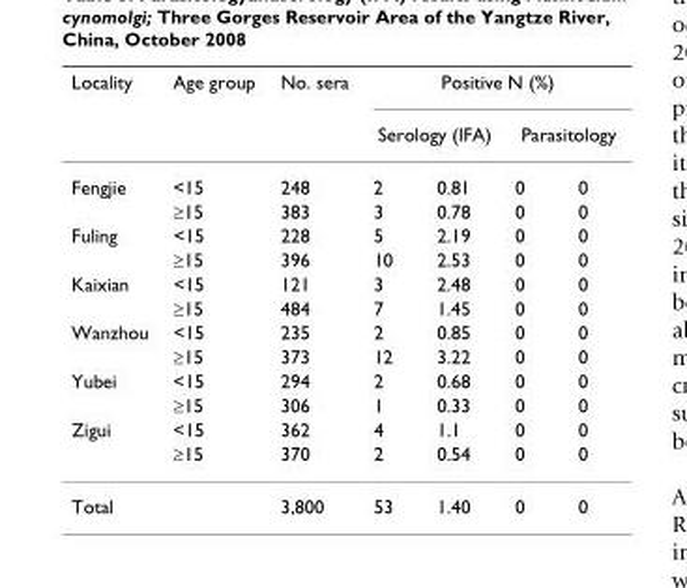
<table><thead><tr><td rowspan="3">Locality Fengjie</td><td rowspan="3">Age group &lt;15</td><td rowspan="3">No. sera 248</td><td colspan="4">Positive N (%)</td></tr><tr><td colspan="2">Serology (IFA)</td><td colspan="2">Parasitology</td></tr><tr><td>2</td><td>0.81</td><td>0</td><td>0</td></tr></thead><tbody><tr><td></td><td>≥15</td><td>383</td><td>3</td><td>0.78</td><td>0</td><td>0</td></tr><tr><td rowspan="2">Fuling</td><td>&lt;15</td><td>228</td><td>5</td><td>2.19</td><td>0</td><td>0</td></tr><tr><td>≥15</td><td>396</td><td>10</td><td>2.53</td><td>0</td><td>0</td></tr><tr><td rowspan="2">Kaixian</td><td>&lt;15</td><td>121</td><td>3</td><td>2.48</td><td>0</td><td>0</td></tr><tr><td>≥15</td><td>484</td><td>7</td><td>1.45</td><td>0</td><td>0</td></tr><tr><td rowspan="2">Wanzhou</td><td>&lt;15</td><td>235</td><td>2</td><td>0.85</td><td>0</td><td>0</td></tr><tr><td>≥15</td><td>373</td><td>12</td><td>3.22</td><td>0</td><td>0</td></tr><tr><td rowspan="2">Yubei</td><td>&lt;15</td><td>294</td><td>2</td><td>0.68</td><td>0</td><td>0</td></tr><tr><td>≥15</td><td>306</td><td>1</td><td>0.33</td><td>0</td><td>0</td></tr><tr><td rowspan="2">Zigui</td><td>&lt;15</td><td>362</td><td>4</td><td>1.1</td><td>0</td><td>0</td></tr><tr><td>≥15</td><td>370</td><td>2</td><td>0.54</td><td>0</td><td>0</td></tr><tr><td>Total</td><td></td><td>3,800</td><td>53</td><td>1.40</td><td>0</td><td>0</td></tr></tbody></table>